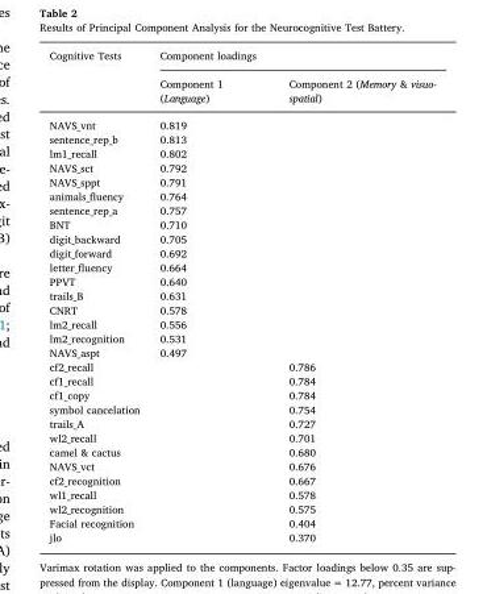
<table><thead><tr><td rowspan="2">Cognitive Tests</td><td colspan="2">Component loadings</td></tr><tr><td>Component 1 (Language)</td><td>Component 2 (Memory &amp; visuo- spatial)</td></tr></thead><tbody><tr><td>NAVS_vnt</td><td>0.819</td><td></td></tr><tr><td>sentence_rep_b</td><td>0.813</td><td></td></tr><tr><td>lm1_recall</td><td>0.802</td><td></td></tr><tr><td>NAVS_sct</td><td>0.792</td><td></td></tr><tr><td>NAVS_sppt</td><td>0.791</td><td></td></tr><tr><td>animals_fluency</td><td>0.764</td><td></td></tr><tr><td>sentence_rep_a</td><td>0.757</td><td></td></tr><tr><td>BNT</td><td>0.710</td><td></td></tr><tr><td>digit_backward</td><td>0.705</td><td></td></tr><tr><td>digit_forward</td><td>0.692</td><td></td></tr><tr><td>letter_fluency</td><td>0.664</td><td></td></tr><tr><td>PPVT</td><td>0.640</td><td></td></tr><tr><td>trails_B</td><td>0.631</td><td></td></tr><tr><td>CNRT</td><td>0.578</td><td></td></tr><tr><td>lm2_recall</td><td>0.556</td><td></td></tr><tr><td>lm2_recognition</td><td>0.531</td><td></td></tr><tr><td>NAVS_aspt</td><td>0.497</td><td></td></tr><tr><td>cf2_recall</td><td></td><td>0.786</td></tr><tr><td>cf1_recall</td><td></td><td>0.784</td></tr><tr><td>cf1_copy</td><td></td><td>0.784</td></tr><tr><td>symbol cancelation</td><td></td><td>0.754</td></tr><tr><td>trails_A</td><td></td><td>0.727</td></tr><tr><td>wl2_recall</td><td></td><td>0.701</td></tr><tr><td>camel &amp; cactus</td><td></td><td>0.680</td></tr><tr><td>NAVS_vct</td><td></td><td>0.676</td></tr><tr><td>cf2_recognition</td><td></td><td>0.667</td></tr><tr><td>wl1_recall</td><td></td><td>0.578</td></tr><tr><td>wl2_recognition</td><td></td><td>0.575</td></tr><tr><td>Facial recognition</td><td></td><td>0.404</td></tr><tr><td>jlo</td><td></td><td>0.370</td></tr></tbody></table>